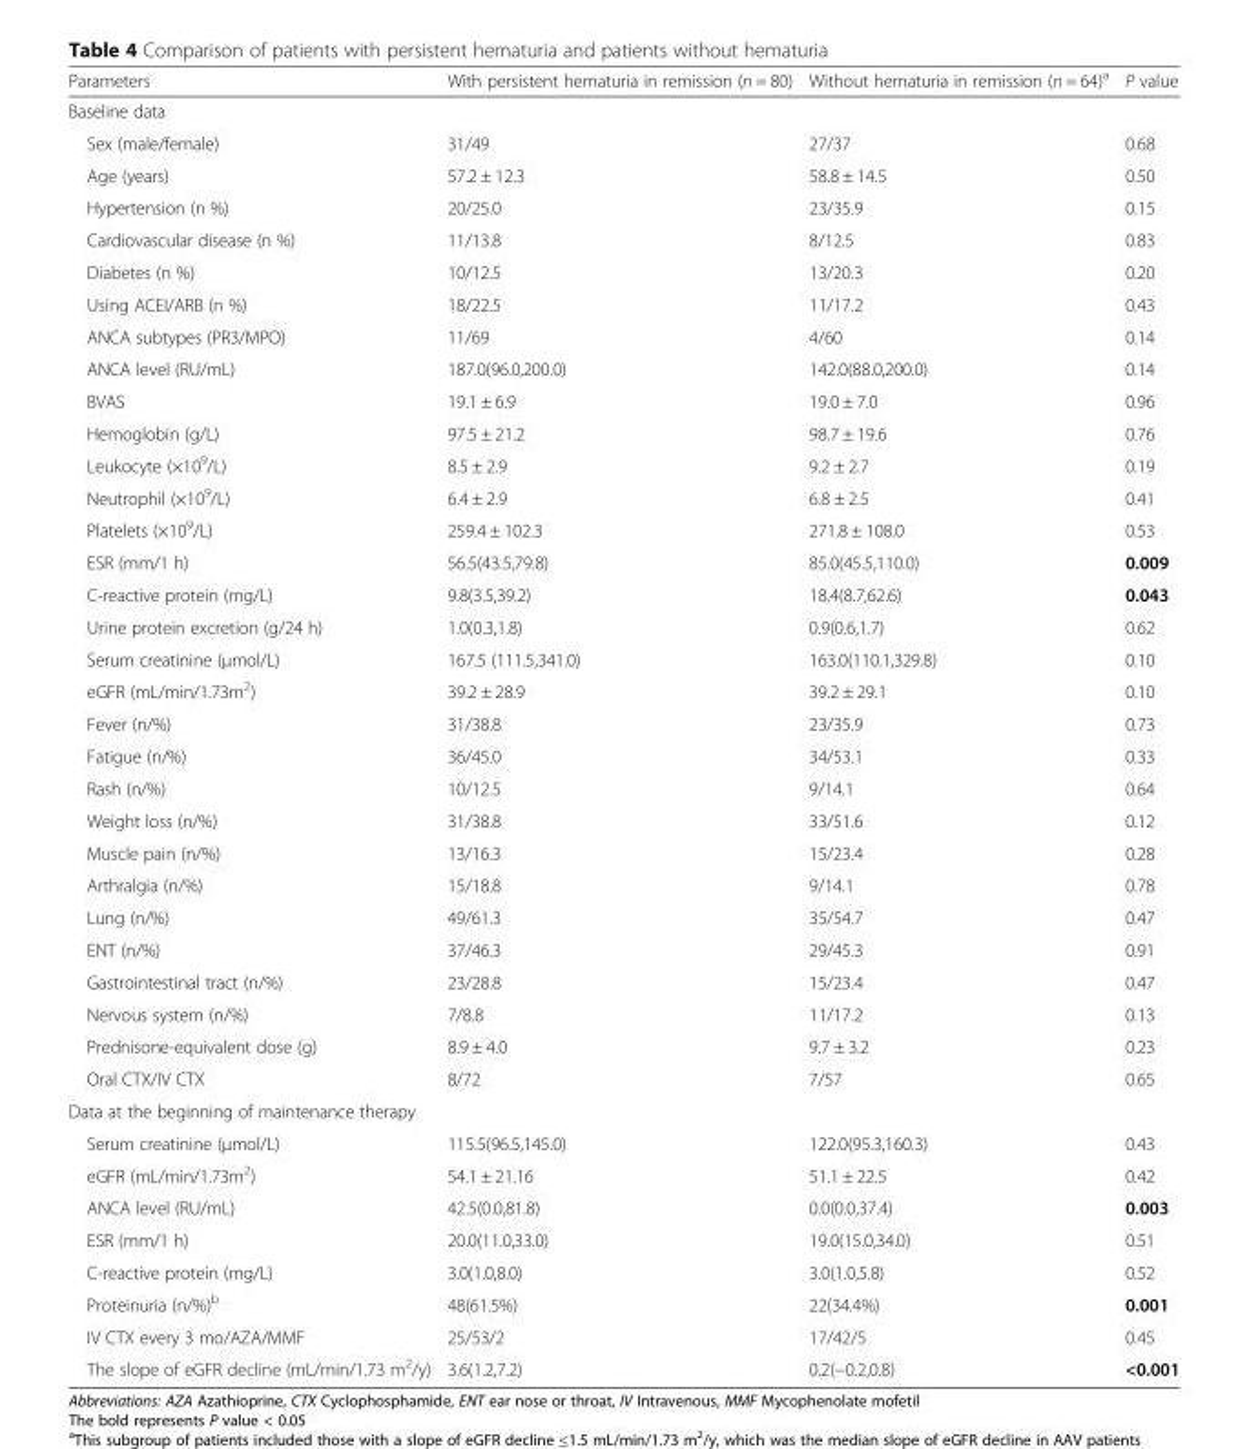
<table><thead><tr><td>Parameters</td><td>With persistent hematuria in remission (n = 80)</td><td>Without hematuria in remission (n = 64)<sup>a</sup></td><td>P value</td></tr></thead><tbody><tr><td colspan="4">Baseline data</td></tr><tr><td>Sex (male/female)</td><td>31/49</td><td>27/37</td><td>0.68</td></tr><tr><td>Age (years)</td><td>57.2 ± 12.3</td><td>58.8 ± 14.5</td><td>0.50</td></tr><tr><td>Hypertension (n %)</td><td>20/25.0</td><td>23/35.9</td><td>0.15</td></tr><tr><td>Cardiovascular disease (n %)</td><td>11/13.8</td><td>8/12.5</td><td>0.83</td></tr><tr><td>Diabetes (n %)</td><td>10/12.5</td><td>13/20.3</td><td>0.20</td></tr><tr><td>Using ACEI/ARB (n %)</td><td>18/22.5</td><td>11/17.2</td><td>0.43</td></tr><tr><td>ANCA subtypes (PR3/MPO)</td><td>11/69</td><td>4/60</td><td>0.14</td></tr><tr><td>ANCA level (RU/mL)</td><td>187.0(96.0,200.0)</td><td>142.0(88.0,200.0)</td><td>0.14</td></tr><tr><td>BVAS</td><td>19.1 ± 6.9</td><td>19.0 ± 7.0</td><td>0.96</td></tr><tr><td>Hemoglobin (g/L)</td><td>97.5 ± 21.2</td><td>98.7 ± 19.6</td><td>0.76</td></tr><tr><td>Leukocyte (×10<sup>9</sup>/L)</td><td>8.5 ± 2.9</td><td>9.2 ± 2.7</td><td>0.19</td></tr><tr><td>Neutrophil (×10<sup>9</sup>/L)</td><td>6.4 ± 2.9</td><td>6.8 ± 2.5</td><td>0.41</td></tr><tr><td>Platelets (×10<sup>9</sup>/L)</td><td>259.4 ± 102.3</td><td>271.8 ± 108.0</td><td>0.53</td></tr><tr><td>ESR (mm/1 h)</td><td>56.5(43.5,79.8)</td><td>85.0(45.5,110.0)</td><td>0.009</td></tr><tr><td>C-reactive protein (mg/L)</td><td>9.8(3.5,39.2)</td><td>18.4(8.7,62.6)</td><td>0.043</td></tr><tr><td>Urine protein excretion (g/24 h)</td><td>1.0(0.3,1.8)</td><td>0.9(0.6,1.7)</td><td>0.62</td></tr><tr><td>Serum creatinine (μmol/L)</td><td>167.5 (111.5,341.0)</td><td>163.0(110.1,329.8)</td><td>0.10</td></tr><tr><td>eGFR (mL/min/1.73m<sup>2</sup>)</td><td>39.2 ± 28.9</td><td>39.2 ± 29.1</td><td>0.10</td></tr><tr><td>Fever (n/%)</td><td>31/38.8</td><td>23/35.9</td><td>0.73</td></tr><tr><td>Fatigue (n/%)</td><td>36/45.0</td><td>34/53.1</td><td>0.33</td></tr><tr><td>Rash (n/%)</td><td>10/12.5</td><td>9/14.1</td><td>0.64</td></tr><tr><td>Weight loss (n/%)</td><td>31/38.8</td><td>33/51.6</td><td>0.12</td></tr><tr><td>Muscle pain (n/%)</td><td>13/16.3</td><td>15/23.4</td><td>0.28</td></tr><tr><td>Arthralgia (n/%)</td><td>15/18.8</td><td>9/14.1</td><td>0.78</td></tr><tr><td>Lung (n/%)</td><td>49/61.3</td><td>35/54.7</td><td>0.47</td></tr><tr><td>ENT (n/%)</td><td>37/46.3</td><td>29/45.3</td><td>0.91</td></tr><tr><td>Gastrointestinal tract (n/%)</td><td>23/28.8</td><td>15/23.4</td><td>0.47</td></tr><tr><td>Nervous system (n/%)</td><td>7/8.8</td><td>11/17.2</td><td>0.13</td></tr><tr><td>Prednisone-equivalent dose (g)</td><td>8.9 ± 4.0</td><td>9.7 ± 3.2</td><td>0.23</td></tr><tr><td>Oral CTX/IV CTX</td><td>8/72</td><td>7/57</td><td>0.65</td></tr><tr><td colspan="4">Data at the beginning of maintenance therapy</td></tr><tr><td>Serum creatinine (μmol/L)</td><td>115.5(96.5,145.0)</td><td>122.0(95.3,160.3)</td><td>0.43</td></tr><tr><td>eGFR (mL/min/1.73m<sup>2</sup>)</td><td>54.1 ± 21.16</td><td>51.1 ± 22.5</td><td>0.42</td></tr><tr><td>ANCA level (RU/mL)</td><td>42.5(0.0,81.8)</td><td>0.0(0.0,37.4)</td><td>0.003</td></tr><tr><td>ESR (mm/1 h)</td><td>20.0(11.0,33.0)</td><td>19.0(15.0,34.0)</td><td>0.51</td></tr><tr><td>C-reactive protein (mg/L)</td><td>3.0(1.0,8.0)</td><td>3.0(1.0,5.8)</td><td>0.52</td></tr><tr><td>Proteinuria (n/%)<sup>b</sup></td><td>48(61.5%)</td><td>22(34.4%)</td><td>0.001</td></tr><tr><td>IV CTX every 3 mo/AZA/MMF</td><td>25/53/2</td><td>17/42/5</td><td>0.45</td></tr><tr><td>The slope of eGFR decline (mL/min/1.73 m<sup>2</sup>/y)</td><td>3.6(1.2,7.2)</td><td>0.2(−0.2,0.8)</td><td>&lt;0.001</td></tr></tbody></table>